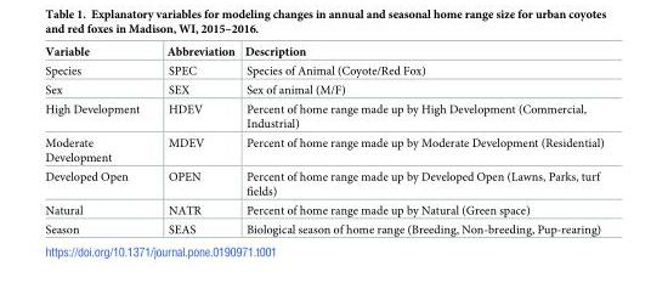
<table><thead><tr><td>Variable</td><td>Abbreviation</td><td>Description</td></tr></thead><tbody><tr><td>Species</td><td>SPEC</td><td>Species of Animal (Coyote/Red Fox)</td></tr><tr><td>Sex</td><td>SEX</td><td>Sex of animal (M/F)</td></tr><tr><td>High Development</td><td>HDEV</td><td>Percent of home range made up by High Development (Commercial, Industrial)</td></tr><tr><td>Moderate Development</td><td>MDEV</td><td>Percent of home range made up by Moderate Development (Residential)</td></tr><tr><td>Developed Open</td><td>OPEN</td><td>Percent of home range made up by Developed Open (Lawns, Parks, turf fields)</td></tr><tr><td>Natural</td><td>NATR</td><td>Percent of home range made up by Natural (Green space)</td></tr><tr><td>Season</td><td>SEAS</td><td>Biological season of home range (Breeding, Non-breeding, Pup-rearing)</td></tr></tbody></table>